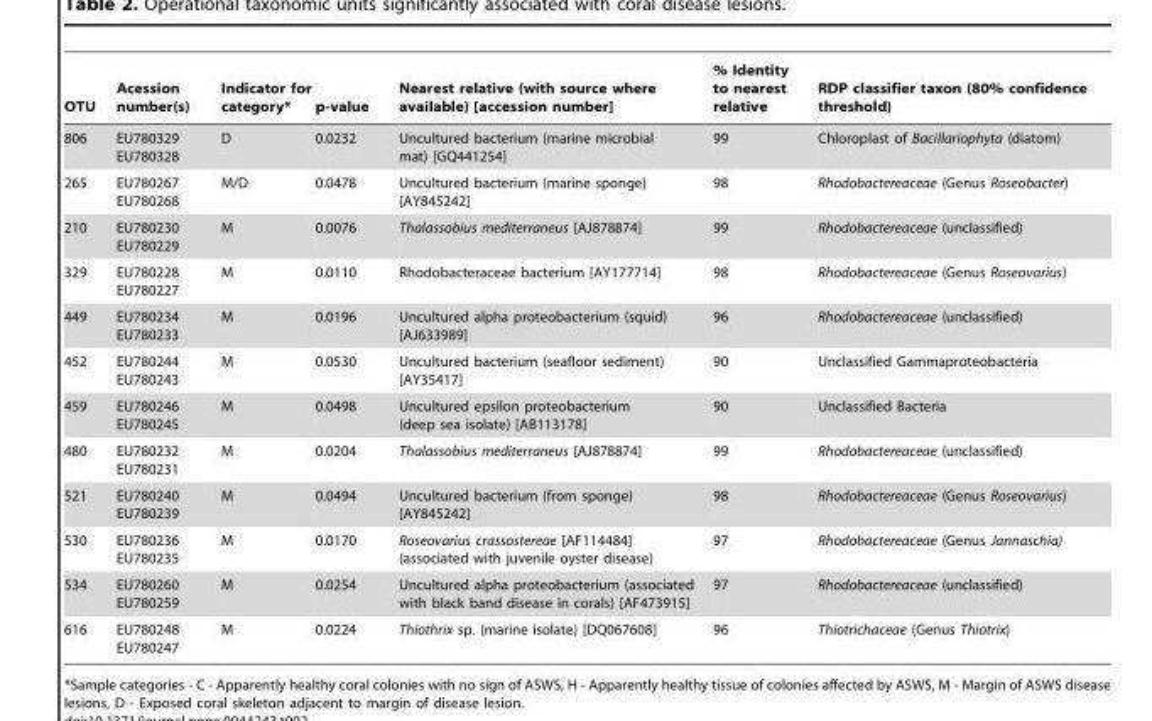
<table><thead><tr><td>OTU</td><td>Acession number(s)</td><td>Indicator for category*</td><td>p-value</td><td>Nearest relative (with source where available) [accession number]</td><td>% Identity to nearest relative</td><td>RDP classifier taxon (80% confidence threshold)</td></tr></thead><tbody><tr><td>806</td><td>EU780329 EU780328</td><td>D</td><td>0.0232</td><td>Uncultured bacterium (marine microbial mat) [GQ441254]</td><td>99</td><td>Chloroplast of Bacillariophyta (diatom)</td></tr><tr><td>265</td><td>EU780267 EU780268</td><td>M/D</td><td>0.0478</td><td>Uncultured bacterium (marine sponge) [AY845242]</td><td>98</td><td>Rhodobactereaceae (Genus Roseobacter)</td></tr><tr><td>210</td><td>EU780230 EU780229</td><td>M</td><td>0.0076</td><td>Thalassobius mediterraneus [AJ878874]</td><td>99</td><td>Rhodobactereaceae (unclassified)</td></tr><tr><td>329</td><td>EU780228 EU780227</td><td>M</td><td>0.0110</td><td>Rhodobacteraceae bacterium [AY177714]</td><td>98</td><td>Rhodobactereaceae (Genus Roseovarius)</td></tr><tr><td>449</td><td>EU780234 EU780233</td><td>M</td><td>0.0196</td><td>Uncultured alpha proteobacterium (squid) [AJ633989]</td><td>96</td><td>Rhodobactereaceae (unclassified)</td></tr><tr><td>452</td><td>EU780244 EU780243</td><td>M</td><td>0.0530</td><td>Uncultured bacterium (seafloor sediment) [AY35417]</td><td>90</td><td>Unclassified Gammaproteobacteria</td></tr><tr><td>459</td><td>EU780246 EU780245</td><td>M</td><td>0.0498</td><td>Uncultured epsilon proteobacterium (deep sea isolate) [AB113178]</td><td>90</td><td>Unclassified Bacteria</td></tr><tr><td>480</td><td>EU780232 EU780231</td><td>M</td><td>0.0204</td><td>Thalassobius mediterraneus [AJ878874]</td><td>99</td><td>Rhodobactereaceae (unclassified)</td></tr><tr><td>521</td><td>EU780240 EU780239</td><td>M</td><td>0.0494</td><td>Uncultured bacterium (from sponge) [AY845242]</td><td>98</td><td>Rhodobactereaceae (Genus Roseovarius)</td></tr><tr><td>530</td><td>EU780236 EU780235</td><td>M</td><td>0.0170</td><td>Roseovarius crassostereae [AF114484] (associated with juvenile oyster disease)</td><td>97</td><td>Rhodobactereaceae (Genus Jannaschia)</td></tr><tr><td>534</td><td>EU780260 EU780259</td><td>M</td><td>0.0254</td><td>Uncultured alpha proteobacterium (associated with black band disease in corals) [AF473915]</td><td>97</td><td>Rhodobactereaceae (unclassified)</td></tr><tr><td>616</td><td>EU780248 EU780247</td><td>M</td><td>0.0224</td><td>Thiothrix sp. (marine isolate) [DQ067608]</td><td>96</td><td>Thiotrichaceae (Genus Thiotrix)</td></tr></tbody></table>